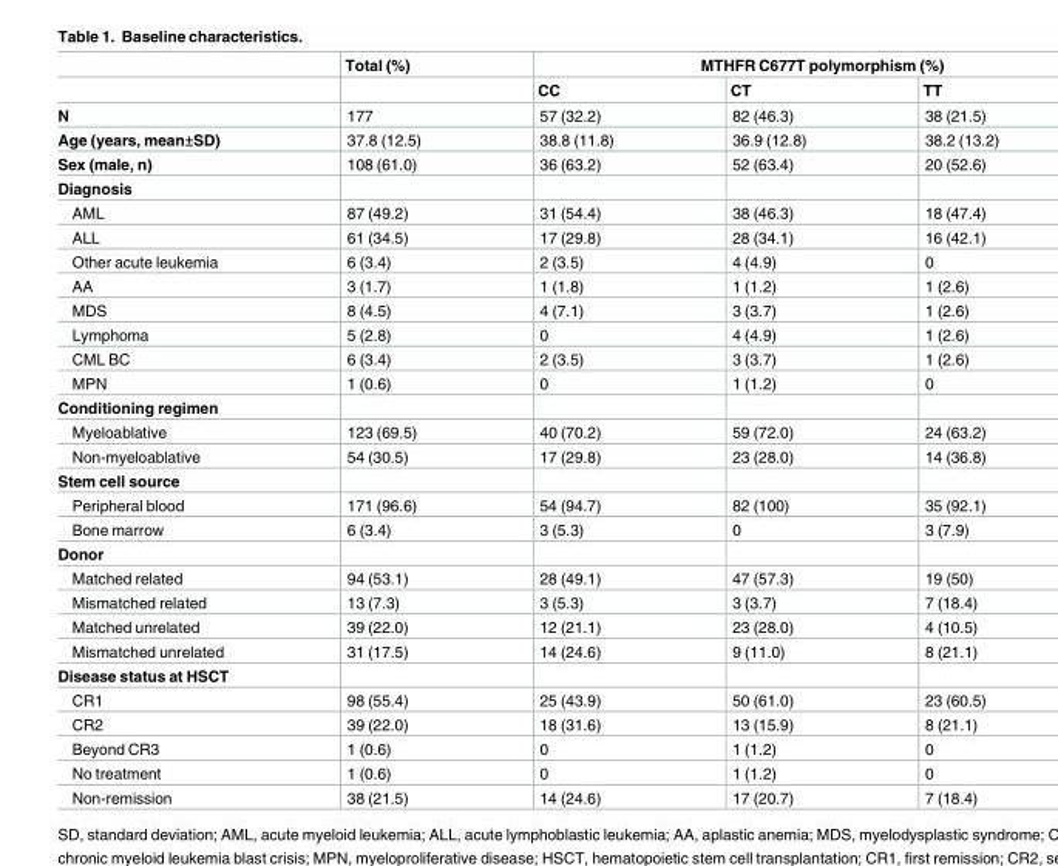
<table><thead><tr><td rowspan="2"></td><td rowspan="2">Total (%)</td><td colspan="3">MTHFR C677T polymorphism (%)</td></tr><tr><td>CC</td><td>CT</td><td>TT</td></tr></thead><tbody><tr><td>N</td><td>177</td><td>57 (32.2)</td><td>82 (46.3)</td><td>38 (21.5)</td></tr><tr><td>Age (years, mean±SD)</td><td>37.8 (12.5)</td><td>38.8 (11.8)</td><td>36.9 (12.8)</td><td>38.2 (13.2)</td></tr><tr><td>Sex (male, n)</td><td>108 (61.0)</td><td>36 (63.2)</td><td>52 (63.4)</td><td>20 (52.6)</td></tr><tr><td colspan="5">Diagnosis</td></tr><tr><td>AML</td><td>87 (49.2)</td><td>31 (54.4)</td><td>38 (46.3)</td><td>18 (47.4)</td></tr><tr><td>ALL</td><td>61 (34.5)</td><td>17 (29.8)</td><td>28 (34.1)</td><td>16 (42.1)</td></tr><tr><td>Other acute leukemia</td><td>6 (3.4)</td><td>2 (3.5)</td><td>4 (4.9)</td><td>0</td></tr><tr><td>AA</td><td>3 (1.7)</td><td>1 (1.8)</td><td>1 (1.2)</td><td>1 (2.6)</td></tr><tr><td>MDS</td><td>8 (4.5)</td><td>4 (7.1)</td><td>3 (3.7)</td><td>1 (2.6)</td></tr><tr><td>Lymphoma</td><td>5 (2.8)</td><td>0</td><td>4 (4.9)</td><td>1 (2.6)</td></tr><tr><td>CML BC</td><td>6 (3.4)</td><td>2 (3.5)</td><td>3 (3.7)</td><td>1 (2.6)</td></tr><tr><td>MPN</td><td>1 (0.6)</td><td>0</td><td>1 (1.2)</td><td>0</td></tr><tr><td colspan="5">Conditioning regimen</td></tr><tr><td>Myeloablative</td><td>123 (69.5)</td><td>40 (70.2)</td><td>59 (72.0)</td><td>24 (63.2)</td></tr><tr><td>Non-myeloablative</td><td>54 (30.5)</td><td>17 (29.8)</td><td>23 (28.0)</td><td>14 (36.8)</td></tr><tr><td colspan="5">Stem cell source</td></tr><tr><td>Peripheral blood</td><td>171 (96.6)</td><td>54 (94.7)</td><td>82 (100)</td><td>35 (92.1)</td></tr><tr><td>Bone marrow</td><td>6 (3.4)</td><td>3 (5.3)</td><td>0</td><td>3 (7.9)</td></tr><tr><td colspan="5">Donor</td></tr><tr><td>Matched related</td><td>94 (53.1)</td><td>28 (49.1)</td><td>47 (57.3)</td><td>19 (50)</td></tr><tr><td>Mismatched related</td><td>13 (7.3)</td><td>3 (5.3)</td><td>3 (3.7)</td><td>7 (18.4)</td></tr><tr><td>Matched unrelated</td><td>39 (22.0)</td><td>12 (21.1)</td><td>23 (28.0)</td><td>4 (10.5)</td></tr><tr><td>Mismatched unrelated</td><td>31 (17.5)</td><td>14 (24.6)</td><td>9 (11.0)</td><td>8 (21.1)</td></tr><tr><td colspan="5">Disease status at HSCT</td></tr><tr><td>CR1</td><td>98 (55.4)</td><td>25 (43.9)</td><td>50 (61.0)</td><td>23 (60.5)</td></tr><tr><td>CR2</td><td>39 (22.0)</td><td>18 (31.6)</td><td>13 (15.9)</td><td>8 (21.1)</td></tr><tr><td>Beyond CR3</td><td>1 (0.6)</td><td>0</td><td>1 (1.2)</td><td>0</td></tr><tr><td>No treatment</td><td>1 (0.6)</td><td>0</td><td>1 (1.2)</td><td>0</td></tr><tr><td>Non-remission</td><td>38 (21.5)</td><td>14 (24.6)</td><td>17 (20.7)</td><td>7 (18.4)</td></tr></tbody></table>